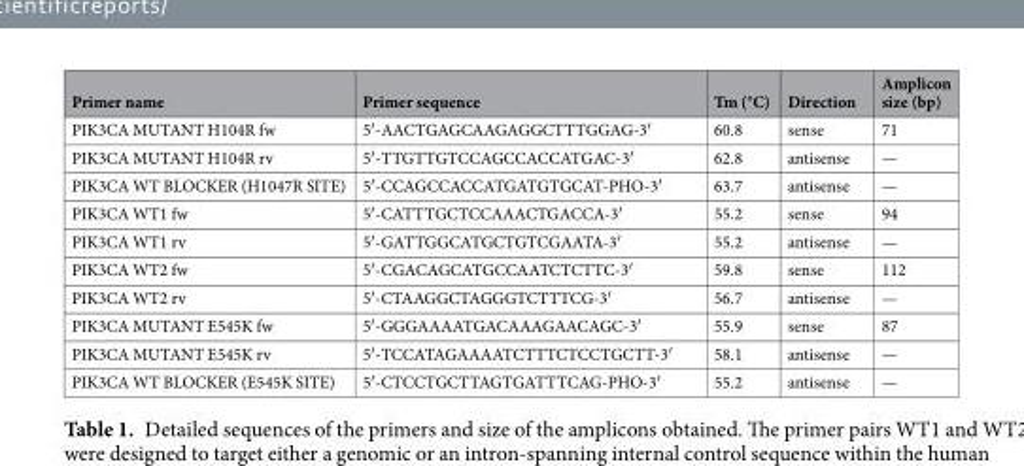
<table><thead><tr><td>Primer name</td><td>Primer sequence</td><td>Tm (°C)</td><td>Direction</td><td>Amplicon size (bp)</td></tr></thead><tbody><tr><td>PIK3CA MUTANT H104R fw</td><td>5′-AACTGAGCAAGAGGCTTTGGAG-3′</td><td>60.8</td><td>sense</td><td>71</td></tr><tr><td>PIK3CA MUTANT H104R rv</td><td>5′-TTGTTGTCCAGCCACCATGAC-3′</td><td>62.8</td><td>antisense</td><td>—</td></tr><tr><td>PIK3CA WT BLOCKER (H1047R SITE)</td><td>5′-CCAGCCACCATGATGTGCAT-PHO-3′</td><td>63.7</td><td>antisense</td><td>—</td></tr><tr><td>PIK3CA WT1 fw</td><td>5′-CATTTGCTCCAAACTGACCA-3′</td><td>55.2</td><td>sense</td><td>94</td></tr><tr><td>PIK3CA WT1 rv</td><td>5′-GATTGGCATGCTGTCGAATA-3′</td><td>55.2</td><td>antisense</td><td>—</td></tr><tr><td>PIK3CA WT2 fw</td><td>5′-CGACAGCATGCCAATCTCTTC-3′</td><td>59.8</td><td>sense</td><td>112</td></tr><tr><td>PIK3CA WT2 rv</td><td>5′-CTAAGGCTAGGGTCTTTCG-3′</td><td>56.7</td><td>antisense</td><td>—</td></tr><tr><td>PIK3CA MUTANT E545K fw</td><td>5′-GGGAAAATGACAAAGAACAGC-3′</td><td>55.9</td><td>sense</td><td>87</td></tr><tr><td>PIK3CA MUTANT E545K rv</td><td>5′-TCCATAGAAAATCTTTCTCCTGCTT-3′</td><td>58.1</td><td>antisense</td><td>—</td></tr><tr><td>PIK3CA WT BLOCKER (E545K SITE)</td><td>5′-CTCCTGCTTAGTGATTTCAG-PHO-3′</td><td>55.2</td><td>antisense</td><td>—</td></tr></tbody></table>